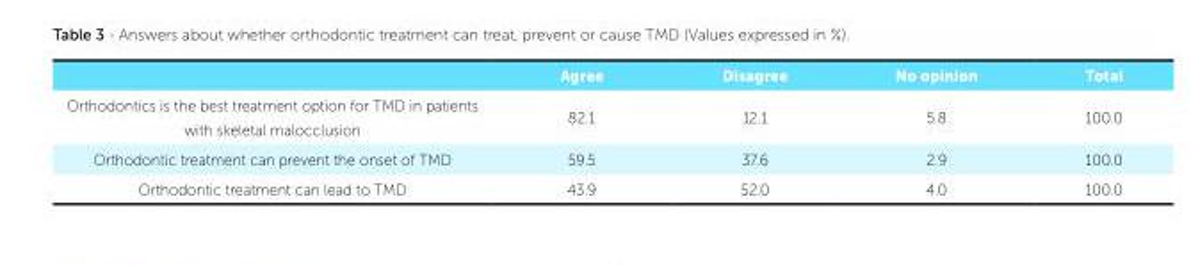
<table><thead><tr><td></td><td>Agree</td><td>Disagree</td><td>No opinion</td><td>Total</td></tr></thead><tbody><tr><td>Orthodontics is the best treatment option for TMD in patients with skeletal malocclusion</td><td>82.1</td><td>12.1</td><td>5.8</td><td>100.0</td></tr><tr><td>Orthodontic treatment can prevent the onset of TMD</td><td>59.5</td><td>37.6</td><td>2.9</td><td>100.0</td></tr><tr><td>Orthodontic treatment can lead to TMD</td><td>43.9</td><td>52.0</td><td>4.0</td><td>100.0</td></tr></tbody></table>